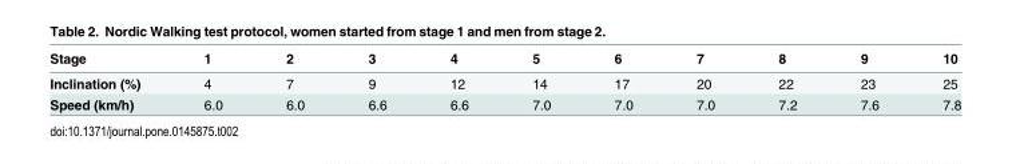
<table><thead><tr><td>Stage</td><td>1</td><td>2</td><td>3</td><td>4</td><td>5</td><td>6</td><td>7</td><td>8</td><td>9</td><td>10</td></tr></thead><tbody><tr><td>Inclination (%)</td><td>4</td><td>7</td><td>9</td><td>12</td><td>14</td><td>17</td><td>20</td><td>22</td><td>23</td><td>25</td></tr><tr><td>Speed (km/h)</td><td>6.0</td><td>6.0</td><td>6.6</td><td>6.6</td><td>7.0</td><td>7.0</td><td>7.0</td><td>7.2</td><td>7.6</td><td>7.8</td></tr></tbody></table>